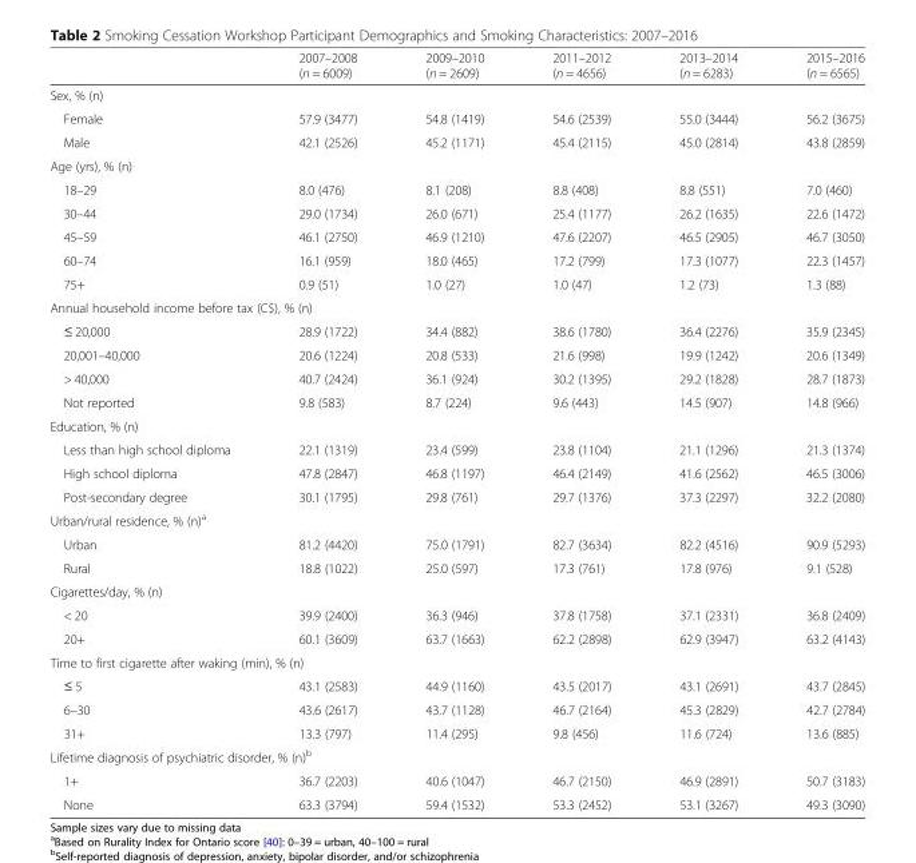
<table><thead><tr><td></td><td>2007–2008 (n = 6009)</td><td>2009–2010 (n = 2609)</td><td>2011–2012 (n = 4656)</td><td>2013–2014 (n = 6283)</td><td>2015–2016 (n = 6565)</td></tr></thead><tbody><tr><td colspan="6">Sex, % (n)</td></tr><tr><td>Female</td><td>57.9 (3477)</td><td>54.8 (1419)</td><td>54.6 (2539)</td><td>55.0 (3444)</td><td>56.2 (3675)</td></tr><tr><td>Male</td><td>42.1 (2526)</td><td>45.2 (1171)</td><td>45.4 (2115)</td><td>45.0 (2814)</td><td>43.8 (2859)</td></tr><tr><td colspan="6">Age (yrs), % (n)</td></tr><tr><td>18–29</td><td>8.0 (476)</td><td>8.1 (208)</td><td>8.8 (408)</td><td>8.8 (551)</td><td>7.0 (460)</td></tr><tr><td>30–44</td><td>29.0 (1734)</td><td>26.0 (671)</td><td>25.4 (1177)</td><td>26.2 (1635)</td><td>22.6 (1472)</td></tr><tr><td>45–59</td><td>46.1 (2750)</td><td>46.9 (1210)</td><td>47.6 (2207)</td><td>46.5 (2905)</td><td>46.7 (3050)</td></tr><tr><td>60–74</td><td>16.1 (959)</td><td>18.0 (465)</td><td>17.2 (799)</td><td>17.3 (1077)</td><td>22.3 (1457)</td></tr><tr><td>75+</td><td>0.9 (51)</td><td>1.0 (27)</td><td>1.0 (47)</td><td>1.2 (73)</td><td>1.3 (88)</td></tr><tr><td colspan="6">Annual household income before tax (C$), % (n)</td></tr><tr><td>≤ 20,000</td><td>28.9 (1722)</td><td>34.4 (882)</td><td>38.6 (1780)</td><td>36.4 (2276)</td><td>35.9 (2345)</td></tr><tr><td>20,001–40,000</td><td>20.6 (1224)</td><td>20.8 (533)</td><td>21.6 (998)</td><td>19.9 (1242)</td><td>20.6 (1349)</td></tr><tr><td>&gt; 40,000</td><td>40.7 (2424)</td><td>36.1 (924)</td><td>30.2 (1395)</td><td>29.2 (1828)</td><td>28.7 (1873)</td></tr><tr><td>Not reported</td><td>9.8 (583)</td><td>8.7 (224)</td><td>9.6 (443)</td><td>14.5 (907)</td><td>14.8 (966)</td></tr><tr><td colspan="6">Education, % (n)</td></tr><tr><td>Less than high school diploma</td><td>22.1 (1319)</td><td>23.4 (599)</td><td>23.8 (1104)</td><td>21.1 (1296)</td><td>21.3 (1374)</td></tr><tr><td>High school diploma</td><td>47.8 (2847)</td><td>46.8 (1197)</td><td>46.4 (2149)</td><td>41.6 (2562)</td><td>46.5 (3006)</td></tr><tr><td>Post-secondary degree</td><td>30.1 (1795)</td><td>29.8 (761)</td><td>29.7 (1376)</td><td>37.3 (2297)</td><td>32.2 (2080)</td></tr><tr><td colspan="6">Urban/rural residence, % (n)<sup>a</sup></td></tr><tr><td>Urban</td><td>81.2 (4420)</td><td>75.0 (1791)</td><td>82.7 (3634)</td><td>82.2 (4516)</td><td>90.9 (5293)</td></tr><tr><td>Rural</td><td>18.8 (1022)</td><td>25.0 (597)</td><td>17.3 (761)</td><td>17.8 (976)</td><td>9.1 (528)</td></tr><tr><td colspan="6">Cigarettes/day, % (n)</td></tr><tr><td>&lt; 20</td><td>39.9 (2400)</td><td>36.3 (946)</td><td>37.8 (1758)</td><td>37.1 (2331)</td><td>36.8 (2409)</td></tr><tr><td>20+</td><td>60.1 (3609)</td><td>63.7 (1663)</td><td>62.2 (2898)</td><td>62.9 (3947)</td><td>63.2 (4143)</td></tr><tr><td colspan="6">Time to first cigarette after waking (min), % (n)</td></tr><tr><td>≤ 5</td><td>43.1 (2583)</td><td>44.9 (1160)</td><td>43.5 (2017)</td><td>43.1 (2691)</td><td>43.7 (2845)</td></tr><tr><td>6–30</td><td>43.6 (2617)</td><td>43.7 (1128)</td><td>46.7 (2164)</td><td>45.3 (2829)</td><td>42.7 (2784)</td></tr><tr><td>31+</td><td>13.3 (797)</td><td>11.4 (295)</td><td>9.8 (456)</td><td>11.6 (724)</td><td>13.6 (885)</td></tr><tr><td colspan="6">Lifetime diagnosis of psychiatric disorder, % (n)<sup>b</sup></td></tr><tr><td>1+</td><td>36.7 (2203)</td><td>40.6 (1047)</td><td>46.7 (2150)</td><td>46.9 (2891)</td><td>50.7 (3183)</td></tr><tr><td>None</td><td>63.3 (3794)</td><td>59.4 (1532)</td><td>53.3 (2452)</td><td>53.1 (3267)</td><td>49.3 (3090)</td></tr></tbody></table>